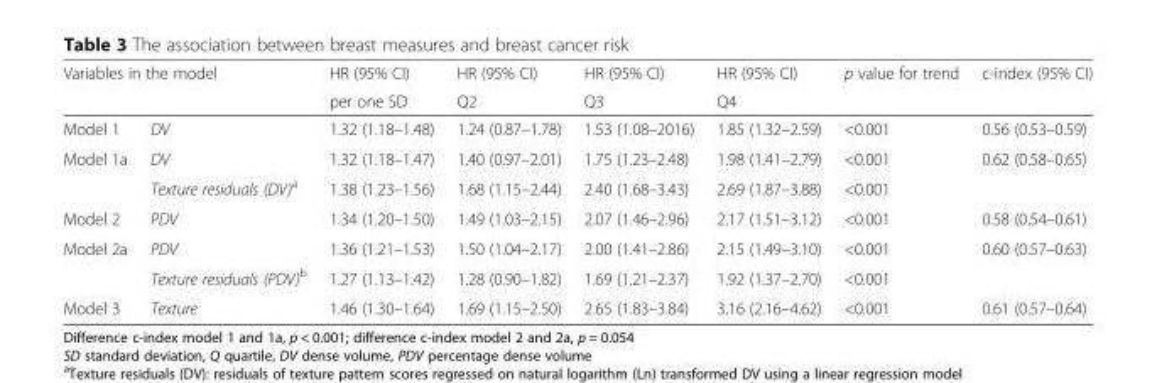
<table><thead><tr><td colspan="2">Variables in the model</td><td rowspan="2">HR (95% CI) per one SD</td><td rowspan="2">HR (95% CI) Q2</td><td rowspan="2">HR (95% CI) Q3</td><td rowspan="2">HR (95% CI) Q4</td><td rowspan="2">p value for trend</td><td rowspan="2">c-index (95% CI)</td></tr><tr><td></td><td></td></tr></thead><tbody><tr><td>Model 1</td><td>DV</td><td>1.32 (1.18–1.48)</td><td>1.24 (0.87–1.78)</td><td>1.53 (1.08–2016)</td><td>1.85 (1.32–2.59)</td><td>&lt;0.001</td><td>0.56 (0.53–0.59)</td></tr><tr><td rowspan="2">Model 1a</td><td>DV</td><td>1.32 (1.18–1.47)</td><td>1.40 (0.97–2.01)</td><td>1.75 (1.23–2.48)</td><td>1.98 (1.41–2.79)</td><td>&lt;0.001</td><td rowspan="2">0.62 (0.58–0.65)</td></tr><tr><td>Texture residuals (DV)<sup>a</sup></td><td>1.38 (1.23–1.56)</td><td>1.68 (1.15–2.44)</td><td>2.40 (1.68–3.43)</td><td>2.69 (1.87–3.88)</td><td>&lt;0.001</td></tr><tr><td>Model 2</td><td>PDV</td><td>1.34 (1.20–1.50)</td><td>1.49 (1.03–2.15)</td><td>2.07 (1.46–2.96)</td><td>2.17 (1.51–3.12)</td><td>&lt;0.001</td><td>0.58 (0.54–0.61)</td></tr><tr><td rowspan="2">Model 2a</td><td>PDV</td><td>1.36 (1.21–1.53)</td><td>1.50 (1.04–2.17)</td><td>2.00 (1.41–2.86)</td><td>2.15 (1.49–3.10)</td><td>&lt;0.001</td><td rowspan="2">0.60 (0.57–0.63)</td></tr><tr><td>Texture residuals (PDV)<sup>b</sup></td><td>1.27 (1.13–1.42)</td><td>1.28 (0.90–1.82)</td><td>1.69 (1.21–2.37)</td><td>1.92 (1.37–2.70)</td><td>&lt;0.001</td></tr><tr><td>Model 3</td><td>Texture</td><td>1.46 (1.30–1.64)</td><td>1.69 (1.15–2.50)</td><td>2.65 (1.83–3.84)</td><td>3.16 (2.16–4.62)</td><td>&lt;0.001</td><td>0.61 (0.57–0.64)</td></tr></tbody></table>